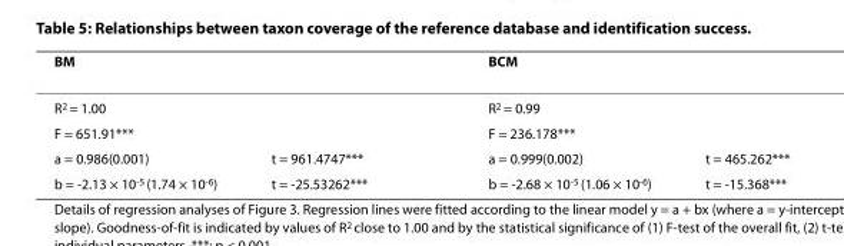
<table><thead><tr><td>BM</td><td></td><td>BCM</td><td></td></tr></thead><tbody><tr><td>R<sup>2</sup> = 1.00</td><td></td><td>R<sup>2</sup> = 0.99</td><td></td></tr><tr><td>F = 651.91***</td><td></td><td>F = 236.178***</td><td></td></tr><tr><td>a = 0.986(0.001)</td><td>t = 961.4747***</td><td>a = 0.999(0.002)</td><td>t = 465.262***</td></tr><tr><td>b = -2.13 × 10<sup>-5</sup> (1.74 × 10<sup>-6</sup>)</td><td>t = -25.53262***</td><td>b = -2.68 × 10<sup>-5</sup> (1.06 × 10<sup>-6</sup>)</td><td>t = -15.368***</td></tr></tbody></table>